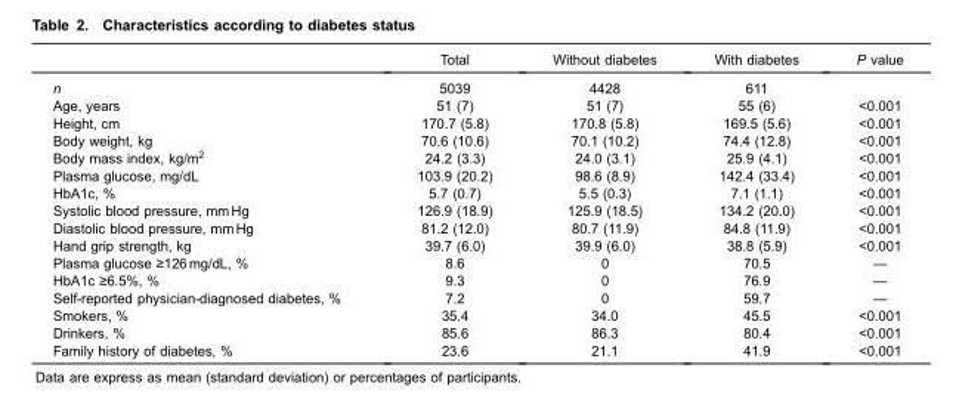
<table><thead><tr><td></td><td>Total</td><td>Without diabetes</td><td>With diabetes</td><td>P value</td></tr></thead><tbody><tr><td>n</td><td>5039</td><td>4428</td><td>611</td><td></td></tr><tr><td>Age, years</td><td>51 (7)</td><td>51 (7)</td><td>55 (6)</td><td>&lt;0.001</td></tr><tr><td>Height, cm</td><td>170.7 (5.8)</td><td>170.8 (5.8)</td><td>169.5 (5.6)</td><td>&lt;0.001</td></tr><tr><td>Body weight, kg</td><td>70.6 (10.6)</td><td>70.1 (10.2)</td><td>74.4 (12.8)</td><td>&lt;0.001</td></tr><tr><td>Body mass index, kg/m<sup>2</sup></td><td>24.2 (3.3)</td><td>24.0 (3.1)</td><td>25.9 (4.1)</td><td>&lt;0.001</td></tr><tr><td>Plasma glucose, mg/dL</td><td>103.9 (20.2)</td><td>98.6 (8.9)</td><td>142.4 (33.4)</td><td>&lt;0.001</td></tr><tr><td>HbA1c, %</td><td>5.7 (0.7)</td><td>5.5 (0.3)</td><td>7.1 (1.1)</td><td>&lt;0.001</td></tr><tr><td>Systolic blood pressure, mm Hg</td><td>126.9 (18.9)</td><td>125.9 (18.5)</td><td>134.2 (20.0)</td><td>&lt;0.001</td></tr><tr><td>Diastolic blood pressure, mm Hg</td><td>81.2 (12.0)</td><td>80.7 (11.9)</td><td>84.8 (11.9)</td><td>&lt;0.001</td></tr><tr><td>Hand grip strength, kg</td><td>39.7 (6.0)</td><td>39.9 (6.0)</td><td>38.8 (5.9)</td><td>&lt;0.001</td></tr><tr><td>Plasma glucose ≥126 mg/dL, %</td><td>8.6</td><td>0</td><td>70.5</td><td>—</td></tr><tr><td>HbA1c ≥6.5%, %</td><td>9.3</td><td>0</td><td>76.9</td><td>—</td></tr><tr><td>Self-reported physician-diagnosed diabetes, %</td><td>7.2</td><td>0</td><td>59.7</td><td>—</td></tr><tr><td>Smokers, %</td><td>35.4</td><td>34.0</td><td>45.5</td><td>&lt;0.001</td></tr><tr><td>Drinkers, %</td><td>85.6</td><td>86.3</td><td>80.4</td><td>&lt;0.001</td></tr><tr><td>Family history of diabetes, %</td><td>23.6</td><td>21.1</td><td>41.9</td><td>&lt;0.001</td></tr></tbody></table>